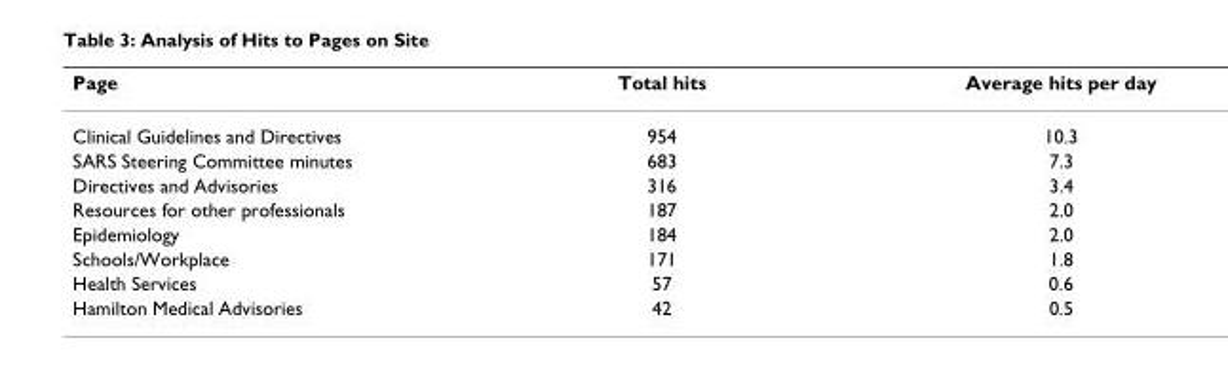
<table><thead><tr><td>Page</td><td>Total hits</td><td>Average hits per day</td></tr></thead><tbody><tr><td>Clinical Guidelines and Directives</td><td>954</td><td>10.3</td></tr><tr><td>SARS Steering Committee minutes</td><td>683</td><td>7.3</td></tr><tr><td>Directives and Advisories</td><td>316</td><td>3.4</td></tr><tr><td>Resources for other professionals</td><td>187</td><td>2.0</td></tr><tr><td>Epidemiology</td><td>184</td><td>2.0</td></tr><tr><td>Schools/Workplace</td><td>171</td><td>1.8</td></tr><tr><td>Health Services</td><td>57</td><td>0.6</td></tr><tr><td>Hamilton Medical Advisories</td><td>42</td><td>0.5</td></tr></tbody></table>